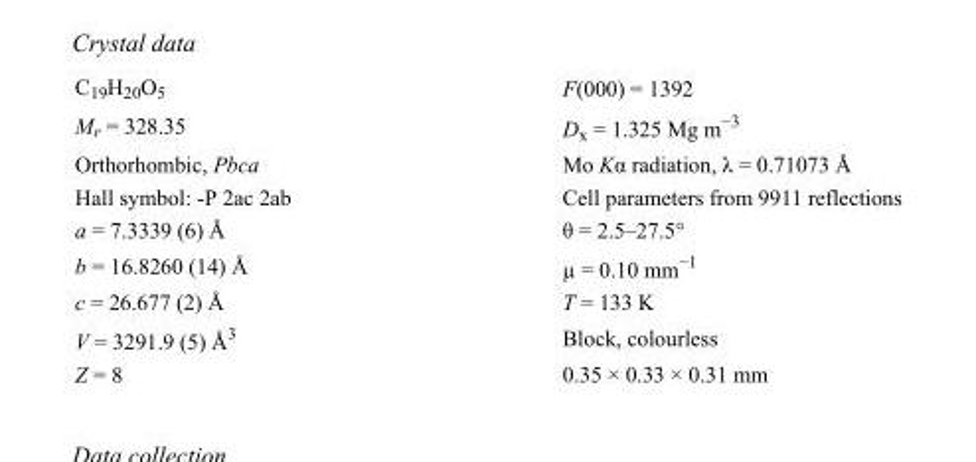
<table><tbody><tr><td>C<sub>19</sub>H<sub>20</sub>O<sub>5</sub></td><td>F(000) = 1392</td></tr><tr><td>M<sub>r</sub> = 328.35</td><td>D<sub>x</sub> = 1.325 Mg m<sup>−3</sup></td></tr><tr><td>Orthorhombic, Pbca</td><td>Mo Kα radiation, λ = 0.71073 Å</td></tr><tr><td>Hall symbol: -P 2ac 2ab</td><td>Cell parameters from 9911 reflections</td></tr><tr><td>a = 7.3339 (6) Å</td><td>θ = 2.5–27.5°</td></tr><tr><td>b = 16.8260 (14) Å</td><td>µ = 0.10 mm<sup>−1</sup></td></tr><tr><td>c = 26.677 (2) Å</td><td>T = 133 K</td></tr><tr><td>V = 3291.9 (5) Å<sup>3</sup></td><td>Block, colourless</td></tr><tr><td>Z = 8</td><td>0.35 × 0.33 × 0.31 mm</td></tr></tbody></table>